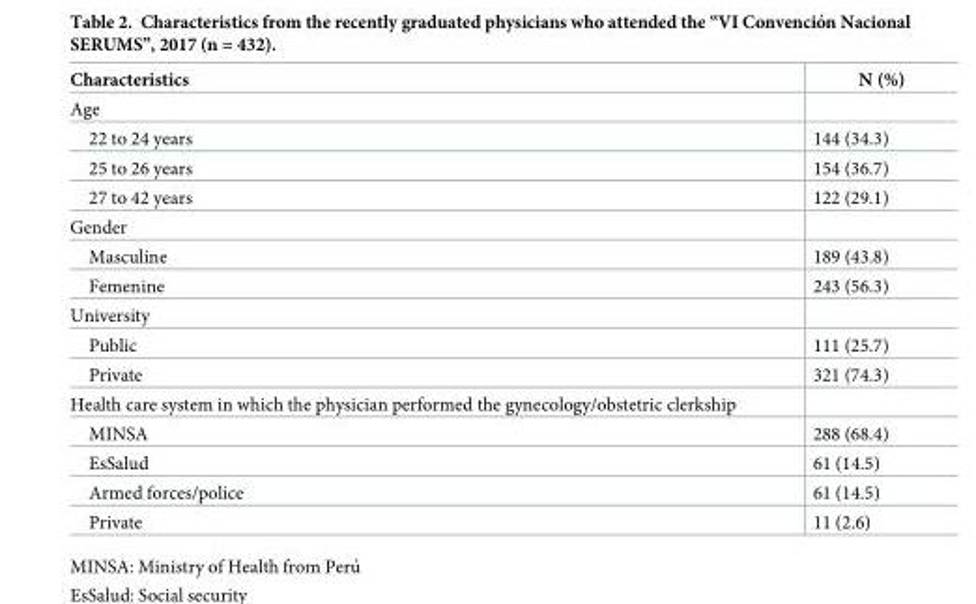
<table><thead><tr><td>Characteristics</td><td>N (%)</td></tr></thead><tbody><tr><td colspan="2">Age</td></tr><tr><td>22 to 24 years</td><td>144 (34.3)</td></tr><tr><td>25 to 26 years</td><td>154 (36.7)</td></tr><tr><td>27 to 42 years</td><td>122 (29.1)</td></tr><tr><td colspan="2">Gender</td></tr><tr><td>Masculine</td><td>189 (43.8)</td></tr><tr><td>Femenine</td><td>243 (56.3)</td></tr><tr><td colspan="2">University</td></tr><tr><td>Public</td><td>111 (25.7)</td></tr><tr><td>Private</td><td>321 (74.3)</td></tr><tr><td colspan="2">Health care system in which the physician performed the gynecology/obstetric clerkship</td></tr><tr><td>MINSA</td><td>288 (68.4)</td></tr><tr><td>EsSalud</td><td>61 (14.5)</td></tr><tr><td>Armed forces/police</td><td>61 (14.5)</td></tr><tr><td>Private</td><td>11 (2.6)</td></tr></tbody></table>